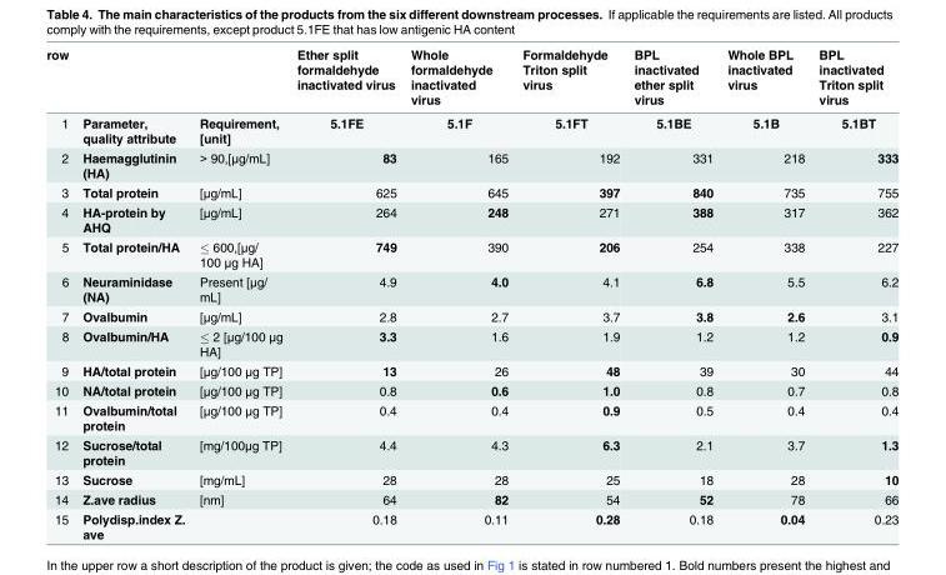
<table><thead><tr><td>row</td><td></td><td></td><td>Ether split formaldehyde inactivated virus</td><td>Whole formaldehyde inactivated virus</td><td>Formaldehyde Triton split virus</td><td>BPL inactivated ether split virus</td><td>Whole BPL inactivated virus</td><td>BPL inactivated Triton split virus</td></tr></thead><tbody><tr><td>1</td><td>Parameter, quality attribute</td><td>Requirement, [unit]</td><td>5.1FE</td><td>5.1F</td><td>5.1FT</td><td>5.1BE</td><td>5.1B</td><td>5.1BT</td></tr><tr><td>2</td><td>Haemagglutinin (HA)</td><td>&gt; 90,[μg/mL]</td><td>83</td><td>165</td><td>192</td><td>331</td><td>218</td><td>333</td></tr><tr><td>3</td><td>Total protein</td><td>[μg/mL]</td><td>625</td><td>645</td><td>397</td><td>840</td><td>735</td><td>755</td></tr><tr><td>4</td><td>HA-protein by AHQ</td><td>[μg/mL]</td><td>264</td><td>248</td><td>271</td><td>388</td><td>317</td><td>362</td></tr><tr><td>5</td><td>Total protein/HA</td><td>≤ 600,[μg/ 100 μg HA]</td><td>749</td><td>390</td><td>206</td><td>254</td><td>338</td><td>227</td></tr><tr><td>6</td><td>Neuraminidase (NA)</td><td>Present [μg/ mL]</td><td>4.9</td><td>4.0</td><td>4.1</td><td>6.8</td><td>5.5</td><td>6.2</td></tr><tr><td>7</td><td>Ovalbumin</td><td>[μg/mL]</td><td>2.8</td><td>2.7</td><td>3.7</td><td>3.8</td><td>2.6</td><td>3.1</td></tr><tr><td>8</td><td>Ovalbumin/HA</td><td>≤ 2 [μg/100 μg HA]</td><td>3.3</td><td>1.6</td><td>1.9</td><td>1.2</td><td>1.2</td><td>0.9</td></tr><tr><td>9</td><td>HA/total protein</td><td>[μg/100 μg TP]</td><td>13</td><td>26</td><td>48</td><td>39</td><td>30</td><td>44</td></tr><tr><td>10</td><td>NA/total protein</td><td>[μg/100 μg TP]</td><td>0.8</td><td>0.6</td><td>1.0</td><td>0.8</td><td>0.7</td><td>0.8</td></tr><tr><td>11</td><td>Ovalbumin/total protein</td><td>[μg/100 μg TP]</td><td>0.4</td><td>0.4</td><td>0.9</td><td>0.5</td><td>0.4</td><td>0.4</td></tr><tr><td>12</td><td>Sucrose/total protein</td><td>[mg/100μg TP]</td><td>4.4</td><td>4.3</td><td>6.3</td><td>2.1</td><td>3.7</td><td>1.3</td></tr><tr><td>13</td><td>Sucrose</td><td>[mg/mL]</td><td>28</td><td>28</td><td>25</td><td>18</td><td>28</td><td>10</td></tr><tr><td>14</td><td>Z.ave radius</td><td>[nm]</td><td>64</td><td>82</td><td>54</td><td>52</td><td>78</td><td>66</td></tr><tr><td>15</td><td>Polydisp.index Z.</td><td></td><td>0.18</td><td>0.11</td><td>0.28</td><td>0.18</td><td>0.04</td><td>0.23</td></tr></tbody></table>